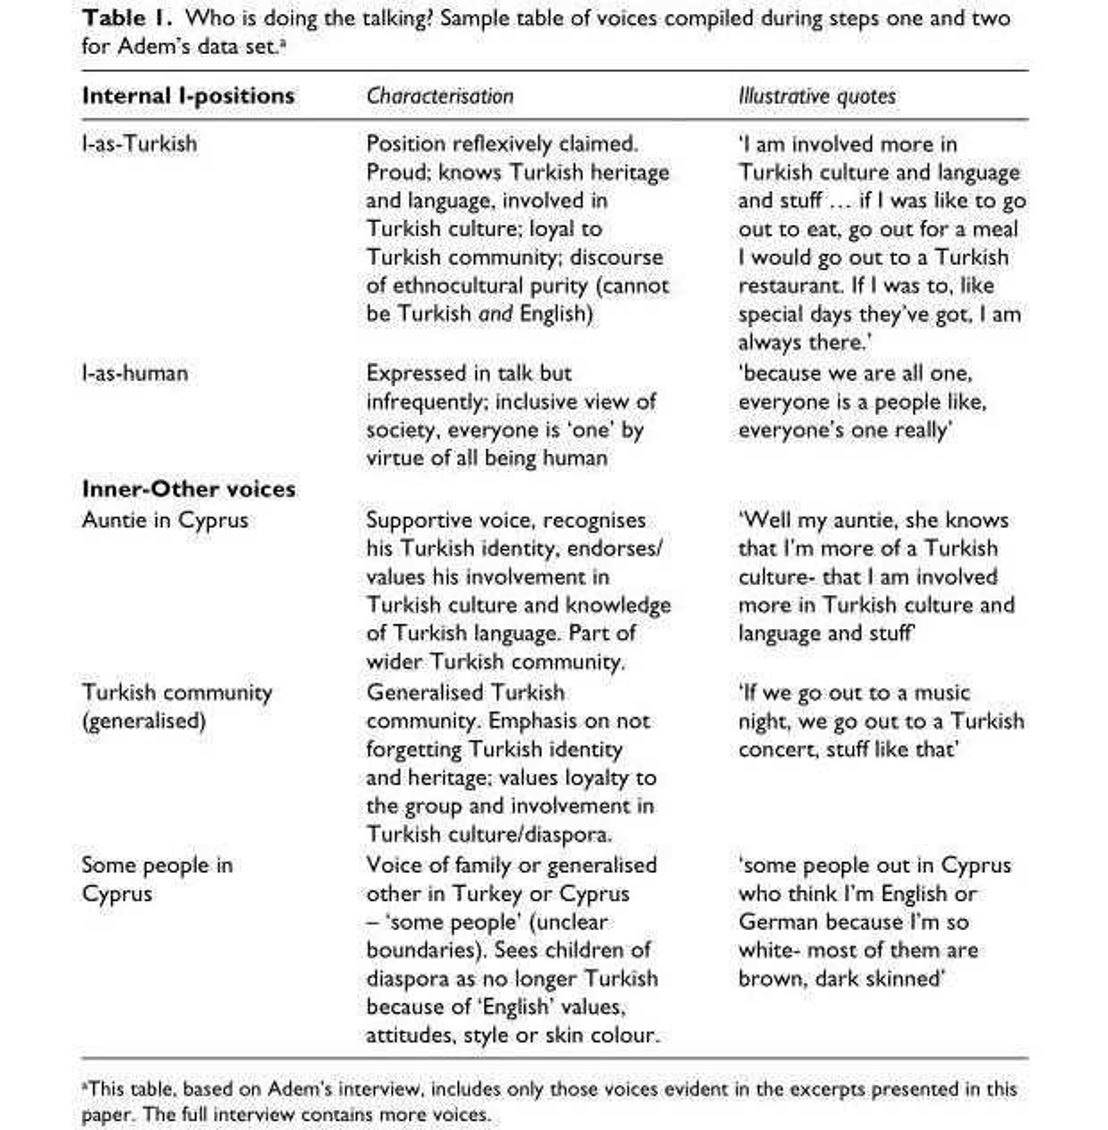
<table><thead><tr><td>Internal I-positions</td><td>Characterisation</td><td>Illustrative quotes</td></tr></thead><tbody><tr><td>I-as-Turkish</td><td>Position reflexively claimed. Proud; knows Turkish heritage and language, involved in Turkish culture; loyal to Turkish community; discourse of ethnocultural purity (cannot be Turkish and English)</td><td>‘I am involved more in Turkish culture and language and stuff … if I was like to go out to eat, go out for a meal I would go out to a Turkish restaurant. If I was to, like special days they’ve got, I am always there.’</td></tr><tr><td>I-as-human</td><td>Expressed in talk but infrequently; inclusive view of society, everyone is ‘one’ by virtue of all being human</td><td>‘because we are all one, everyone is a people like, everyone’s one really’</td></tr><tr><td colspan="3">Inner-Other voices</td></tr><tr><td>Auntie in Cyprus</td><td>Supportive voice, recognises his Turkish identity, endorses/ values his involvement in Turkish culture and knowledge of Turkish language. Part of wider Turkish community.</td><td>‘Well my auntie, she knows that I’m more of a Turkish culture- that I am involved more in Turkish culture and language and stuff’</td></tr><tr><td>Turkish community (generalised)</td><td>Generalised Turkish community. Emphasis on not forgetting Turkish identity and heritage; values loyalty to the group and involvement in Turkish culture/diaspora.</td><td>‘If we go out to a music night, we go out to a Turkish concert, stuff like that’</td></tr><tr><td>Some people in Cyprus</td><td>Voice of family or generalised other in Turkey or Cyprus – ‘some people’ (unclear boundaries). Sees children of diaspora as no longer Turkish because of ‘English’ values, attitudes, style or skin colour.</td><td>‘some people out in Cyprus who think I’m English or German because I’m so white- most of them are brown, dark skinned’</td></tr></tbody></table>